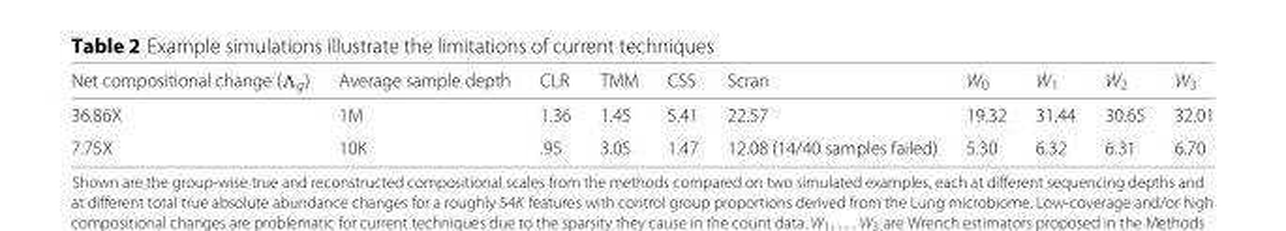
<table><thead><tr><td>Net compositional change (Λ<sub>g</sub>)</td><td>Average sample depth</td><td>CLR</td><td>TMM</td><td>CSS</td><td>Scran</td><td>W<sub>0</sub></td><td>W<sub>1</sub></td><td>W<sub>2</sub></td><td>W<sub>3</sub></td></tr></thead><tbody><tr><td>36.86X</td><td>1M</td><td>1.36</td><td>1.45</td><td>5.41</td><td>22.57</td><td>19.32</td><td>31.44</td><td>30.65</td><td>32.01</td></tr><tr><td>7.75X</td><td>10K</td><td>.95</td><td>3.05</td><td>1.47</td><td>12.08 (14/40 samples failed)</td><td>5.30</td><td>6.32</td><td>6.31</td><td>6.70</td></tr></tbody></table>